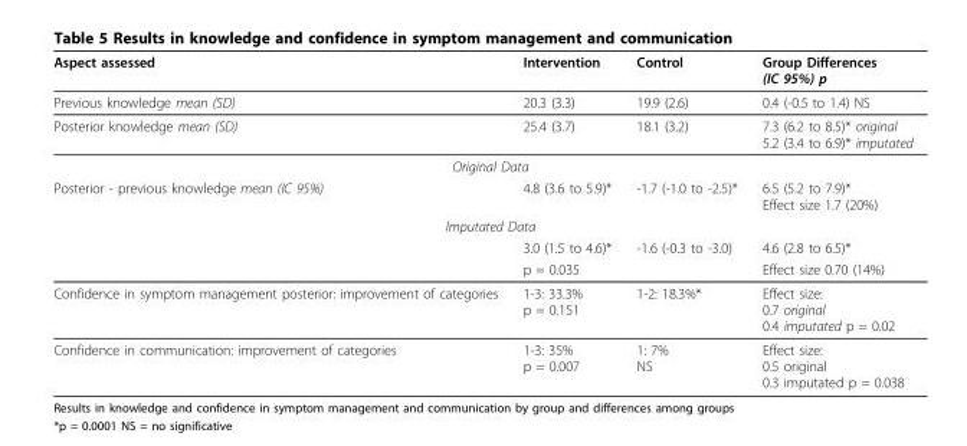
<table><thead><tr><td>Aspect assessed</td><td>Intervention</td><td>Control</td><td>Group Differences (IC 95%) p</td></tr></thead><tbody><tr><td>Previous knowledge mean (SD)</td><td>20.3 (3.3)</td><td>19.9 (2.6)</td><td>0.4 (-0.5 to 1.4) NS</td></tr><tr><td>Posterior knowledge mean (SD)</td><td>25.4 (3.7)</td><td>18.1 (3.2)</td><td>7.3 (6.2 to 8.5)* original 5.2 (3.4 to 6.9)* imputated</td></tr><tr><td colspan="4">Original Data</td></tr><tr><td>Posterior - previous knowledge mean (IC 95%)</td><td>4.8 (3.6 to 5.9)*</td><td>-1.7 (-1.0 to -2.5)*</td><td>6.5 (5.2 to 7.9)* Effect size 1.7 (20%)</td></tr><tr><td colspan="4">Imputated Data</td></tr><tr><td></td><td>3.0 (1.5 to 4.6)*</td><td>-1.6 (-0.3 to -3.0)</td><td>4.6 (2.8 to 6.5)*</td></tr><tr><td></td><td>p = 0.035</td><td></td><td>Effect size 0.70 (14%)</td></tr><tr><td>Confidence in symptom management posterior: improvement of categories</td><td>1-3: 33.3% p = 0.151</td><td>1-2: 18.3%*</td><td>Effect size: 0.7 original 0.4 imputated p = 0.02</td></tr><tr><td>Confidence in communication: improvement of categories</td><td>1-3: 35% p = 0.007</td><td>1: 7% NS</td><td>Effect size: 0.5 original 0.3 imputated p = 0.038</td></tr></tbody></table>